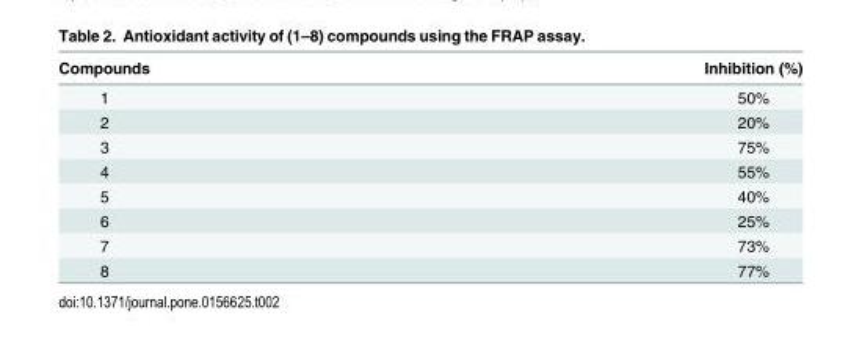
<table><thead><tr><td>Compounds</td><td>Inhibition (%)</td></tr></thead><tbody><tr><td>1</td><td>50%</td></tr><tr><td>2</td><td>20%</td></tr><tr><td>3</td><td>75%</td></tr><tr><td>4</td><td>55%</td></tr><tr><td>5</td><td>40%</td></tr><tr><td>6</td><td>25%</td></tr><tr><td>7</td><td>73%</td></tr><tr><td>8</td><td>77%</td></tr></tbody></table>